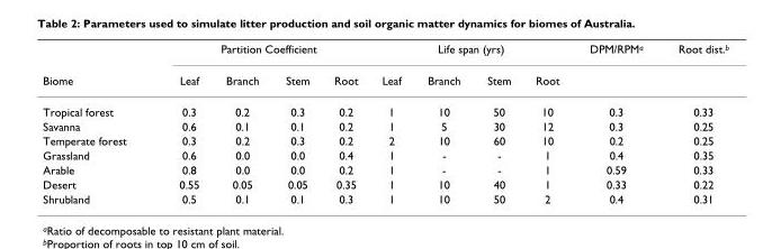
<table><thead><tr><td rowspan="2">Biome</td><td colspan="4">Partition Coefficient</td><td colspan="4">Life span (yrs)</td><td rowspan="2">DPM/RPM<sup>a</sup></td><td rowspan="2">Root dist.<sup>b</sup></td></tr><tr><td>Leaf</td><td>Branch</td><td>Stem</td><td>Root</td><td>Leaf</td><td>Branch</td><td>Stem</td><td>Root</td></tr></thead><tbody><tr><td>Tropical forest</td><td>0.3</td><td>0.2</td><td>0.3</td><td>0.2</td><td>1</td><td>10</td><td>50</td><td>10</td><td>0.3</td><td>0.33</td></tr><tr><td>Savanna</td><td>0.6</td><td>0.1</td><td>0.1</td><td>0.2</td><td>1</td><td>5</td><td>30</td><td>12</td><td>0.3</td><td>0.25</td></tr><tr><td>Temperate forest</td><td>0.3</td><td>0.2</td><td>0.3</td><td>0.2</td><td>2</td><td>10</td><td>60</td><td>10</td><td>0.2</td><td>0.25</td></tr><tr><td>Grassland</td><td>0.6</td><td>0.0</td><td>0.0</td><td>0.4</td><td>1</td><td>-</td><td>-</td><td>1</td><td>0.4</td><td>0.35</td></tr><tr><td>Arable</td><td>0.8</td><td>0.0</td><td>0.0</td><td>0.2</td><td>1</td><td>-</td><td>-</td><td>1</td><td>0.59</td><td>0.33</td></tr><tr><td>Desert</td><td>0.55</td><td>0.05</td><td>0.05</td><td>0.35</td><td>1</td><td>10</td><td>40</td><td>1</td><td>0.33</td><td>0.22</td></tr><tr><td>Shrubland</td><td>0.5</td><td>0.1</td><td>0.1</td><td>0.3</td><td>1</td><td>10</td><td>50</td><td>2</td><td>0.4</td><td>0.31</td></tr></tbody></table>